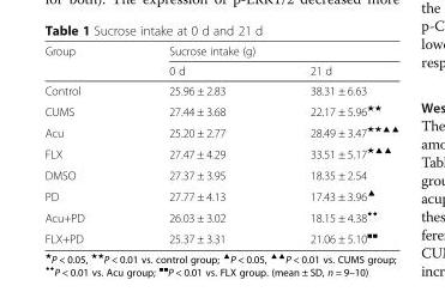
<table><thead><tr><td rowspan="2">Group</td><td colspan="2">Sucrose intake (g)</td></tr><tr><td>0 d</td><td>21 d</td></tr></thead><tbody><tr><td>Control</td><td>25.96 ± 2.83</td><td>38.31 ± 6.63</td></tr><tr><td>CUMS</td><td>27.44 ± 3.68</td><td>22.17 ± 5.96<sup>★★</sup></td></tr><tr><td>Acu</td><td>25.20 ± 2.77</td><td>28.49 ± 3.47<sup>★★▲▲</sup></td></tr><tr><td>FLX</td><td>27.47 ± 4.29</td><td>33.51 ± 5.17<sup>★▲▲</sup></td></tr><tr><td>DMSO</td><td>27.37 ± 3.95</td><td>18.35 ± 2.54</td></tr><tr><td>PD</td><td>27.77 ± 4.13</td><td>17.43 ± 3.96<sup>▲</sup></td></tr><tr><td>Acu+PD</td><td>26.03 ± 3.02</td><td>18.15 ± 4.38<sup>◆◆</sup></td></tr><tr><td>FLX+PD</td><td>25.37 ± 3.31</td><td>21.06 ± 5.10<sup>■■</sup></td></tr></tbody></table>